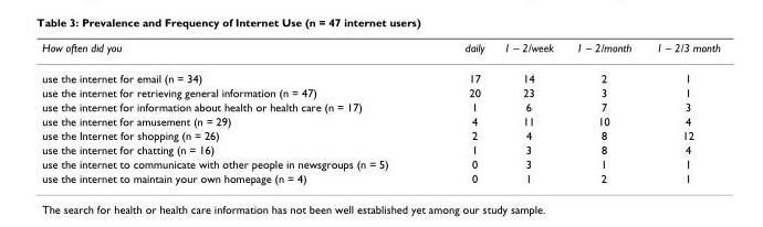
<table><thead><tr><td>How often did you</td><td>daily</td><td>1 – 2/week</td><td>1 – 2/month</td><td>1 – 2/3 month</td></tr></thead><tbody><tr><td>use the internet for email (n = 34)</td><td>17</td><td>14</td><td>2</td><td>1</td></tr><tr><td>use the internet for retrieving general information (n = 47)</td><td>20</td><td>23</td><td>3</td><td>1</td></tr><tr><td>use the internet for information about health or health care (n = 17)</td><td>1</td><td>6</td><td>7</td><td>3</td></tr><tr><td>use the internet for amusement (n = 29)</td><td>4</td><td>11</td><td>10</td><td>4</td></tr><tr><td>use the Internet for shopping (n = 26)</td><td>2</td><td>4</td><td>8</td><td>12</td></tr><tr><td>use the internet for chatting (n = 16)</td><td>1</td><td>3</td><td>8</td><td>4</td></tr><tr><td>use the internet to communicate with other people in newsgroups (n = 5)</td><td>0</td><td>3</td><td>1</td><td>1</td></tr><tr><td>use the internet to maintain your own homepage (n = 4)</td><td>0</td><td>1</td><td>2</td><td>1</td></tr></tbody></table>